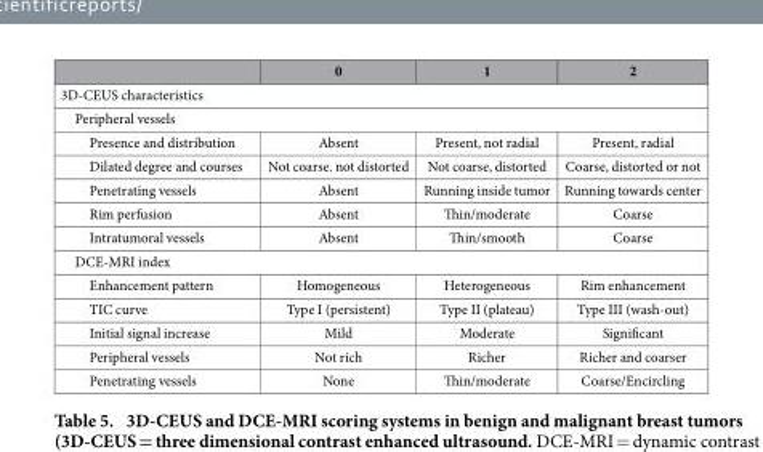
<table><thead><tr><td></td><td>0</td><td>1</td><td>2</td></tr></thead><tbody><tr><td colspan="4">3D-CEUS characteristics</td></tr><tr><td colspan="4">Peripheral vessels</td></tr><tr><td>Presence and distribution</td><td>Absent</td><td>Present, not radial</td><td>Present, radial</td></tr><tr><td>Dilated degree and courses</td><td>Not coarse. not distorted</td><td>Not coarse, distorted</td><td>Coarse, distorted or not</td></tr><tr><td>Penetrating vessels</td><td>Absent</td><td>Running inside tumor</td><td>Running towards center</td></tr><tr><td>Rim perfusion</td><td>Absent</td><td>Thin/moderate</td><td>Coarse</td></tr><tr><td>Intratumoral vessels</td><td>Absent</td><td>Thin/smooth</td><td>Coarse</td></tr><tr><td colspan="4">DCE-MRI index</td></tr><tr><td>Enhancement pattern</td><td>Homogeneous</td><td>Heterogeneous</td><td>Rim enhancement</td></tr><tr><td>TIC curve</td><td>Type I (persistent)</td><td>Type II (plateau)</td><td>Type III (wash-out)</td></tr><tr><td>Initial signal increase</td><td>Mild</td><td>Moderate</td><td>Significant</td></tr><tr><td>Peripheral vessels</td><td>Not rich</td><td>Richer</td><td>Richer and coarser</td></tr><tr><td>Penetrating vessels</td><td>None</td><td>Thin/moderate</td><td>Coarse/Encircling</td></tr></tbody></table>